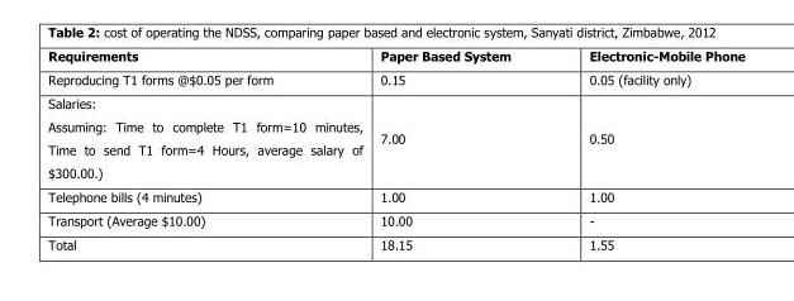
<table><thead><tr><td>Requirements</td><td>Paper Based System</td><td>Electronic-Mobile Phone</td></tr></thead><tbody><tr><td>Reproducing T1 forms @$0.05 per form</td><td>0.15</td><td>0.05 (facility only)</td></tr><tr><td>Salaries: Assuming: Time to complete T1 form=10 minutes, Time to send T1 form=4 Hours, average salary of $300.00.)</td><td>7.00</td><td>0.50</td></tr><tr><td>Telephone bills (4 minutes)</td><td>1.00</td><td>1.00</td></tr><tr><td>Transport (Average $10.00)</td><td>10.00</td><td>-</td></tr><tr><td>Total</td><td>18.15</td><td>1.55</td></tr></tbody></table>